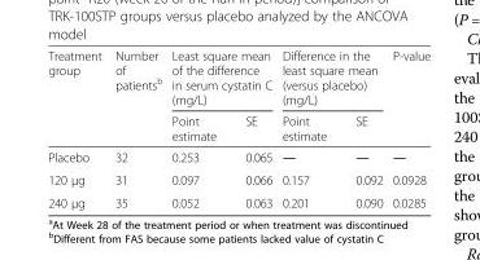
<table><thead><tr><td rowspan="2">Treatment group</td><td rowspan="2">Number of patients<sup>b</sup></td><td colspan="2">Least square mean of the difference in serum cystatin C (mg/L)</td><td colspan="2">Difference in the least square mean (versus placebo) (mg/L)</td><td rowspan="2">P-value</td></tr><tr><td>Point estimate</td><td>SE</td><td>Point estimate</td><td>SE</td></tr></thead><tbody><tr><td>Placebo</td><td>32</td><td>0.253</td><td>0.065</td><td>―</td><td>―</td><td>―</td></tr><tr><td>120 μg</td><td>31</td><td>0.097</td><td>0.066</td><td>0.157</td><td>0.092</td><td>0.0928</td></tr><tr><td>240 μg</td><td>35</td><td>0.052</td><td>0.063</td><td>0.201</td><td>0.090</td><td>0.0285</td></tr></tbody></table>